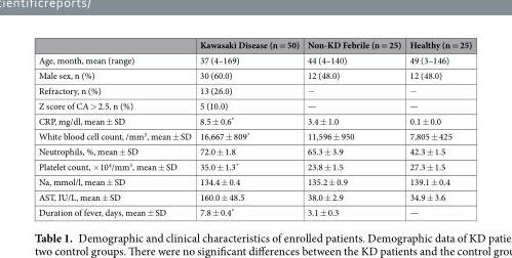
<table><thead><tr><td></td><td>Kawasaki Disease (n = 50)</td><td>Non-KD Febrile (n = 25)</td><td>Healthy (n = 25)</td></tr></thead><tbody><tr><td>Age, month, mean (range)</td><td>37 (4–169)</td><td>44 (4–140)</td><td>49 (3–146)</td></tr><tr><td>Male sex, n (%)</td><td>30 (60.0)</td><td>12 (48.0)</td><td>12 (48.0)</td></tr><tr><td>Refractory, n (%)</td><td>13 (26.0)</td><td>−</td><td>−</td></tr><tr><td>Z score of CA &gt; 2.5, n (%)</td><td>5 (10.0)</td><td>—</td><td>—</td></tr><tr><td>CRP, mg/dl, mean ± SD</td><td>8.5 ± 0.6*</td><td>3.4 ± 1.0</td><td>0.1 ± 0.0</td></tr><tr><td>White blood cell count, /mm<sup>3</sup>, mean ± SD</td><td>16,667 ± 809*</td><td>11,596 ± 950</td><td>7,805 ± 425</td></tr><tr><td>Neutrophils, %, mean ± SD</td><td>72.0 ± 1.8</td><td>65.3 ± 3.9</td><td>42.3 ± 1.5</td></tr><tr><td>Platelet count, ×10<sup>4</sup>/mm<sup>3</sup>, mean ± SD</td><td>35.0 ± 1.3*</td><td>23.8 ± 1.5</td><td>27.3 ± 1.5</td></tr><tr><td>Na, mmol/l, mean ± SD</td><td>134.4 ± 0.4</td><td>135.2 ± 0.9</td><td>139.1 ± 0.4</td></tr><tr><td>AST, IU/L, mean ± SD</td><td>160.0 ± 48.5</td><td>38.0 ± 2.9</td><td>34.9 ± 3.6</td></tr><tr><td>Duration of fever, days, mean ± SD</td><td>7.8 ± 0.4*</td><td>3.1 ± 0.3</td><td>—</td></tr></tbody></table>